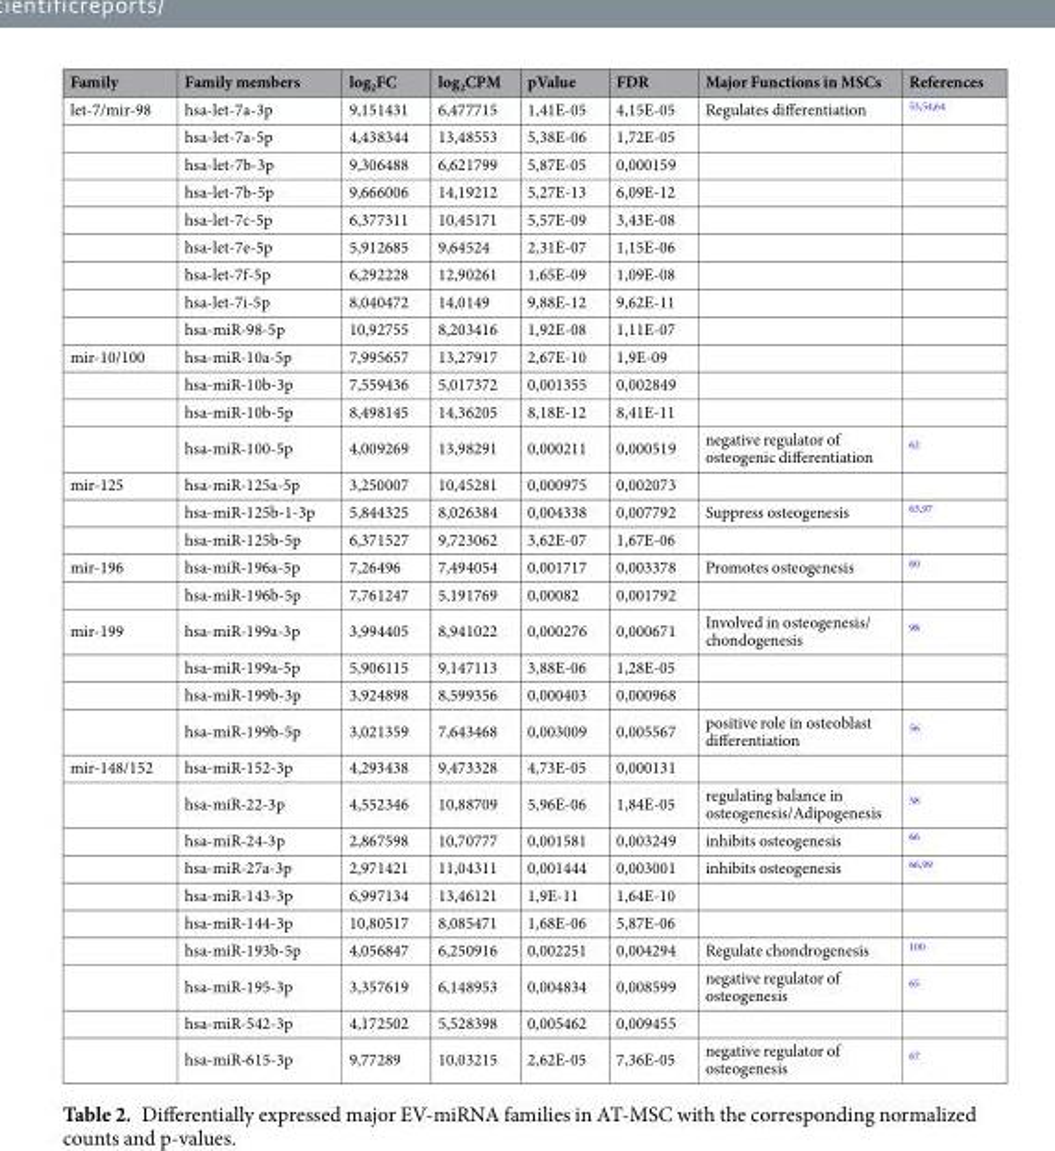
<table><thead><tr><td>Family</td><td>Family members</td><td>log<sub>2</sub>FC</td><td>log<sub>2</sub>CPM</td><td>pValue</td><td>FDR</td><td>Major Functions in MSCs</td><td>References</td></tr></thead><tbody><tr><td rowspan="9">let-7/mir-98</td><td>hsa-let-7a-3p</td><td>9,151431</td><td>6,477715</td><td>1,41E-05</td><td>4,15E-05</td><td>Regulates differentiation</td><td><sup>53,54,64</sup></td></tr><tr><td>hsa-let-7a-5p</td><td>4,438344</td><td>13,48553</td><td>5,38E-06</td><td>1,72E-05</td><td></td><td></td></tr><tr><td>hsa-let-7b-3p</td><td>9,306488</td><td>6,621799</td><td>5,87E-05</td><td>0,000159</td><td></td><td></td></tr><tr><td>hsa-let-7b-5p</td><td>9,666006</td><td>14,19212</td><td>5,27E-13</td><td>6,09E-12</td><td></td><td></td></tr><tr><td>hsa-let-7c-5p</td><td>6,377311</td><td>10,45171</td><td>5,57E-09</td><td>3,43E-08</td><td></td><td></td></tr><tr><td>hsa-let-7e-5p</td><td>5,912685</td><td>9,64524</td><td>2,31E-07</td><td>1,15E-06</td><td></td><td></td></tr><tr><td>hsa-let-7f-5p</td><td>6,292228</td><td>12,90261</td><td>1,65E-09</td><td>1,09E-08</td><td></td><td></td></tr><tr><td>hsa-let-7i-5p</td><td>8,040472</td><td>14,0149</td><td>9,88E-12</td><td>9,62E-11</td><td></td><td></td></tr><tr><td>hsa-miR-98-5p</td><td>10,92755</td><td>8,203416</td><td>1,92E-08</td><td>1,11E-07</td><td></td><td></td></tr><tr><td rowspan="4">mir-10/100</td><td>hsa-miR-10a-5p</td><td>7,995657</td><td>13,27917</td><td>2,67E-10</td><td>1,9E-09</td><td></td><td></td></tr><tr><td>hsa-miR-10b-3p</td><td>7,559436</td><td>5,017372</td><td>0,001355</td><td>0,002849</td><td></td><td></td></tr><tr><td>hsa-miR-10b-5p</td><td>8,498145</td><td>14,36205</td><td>8,18E-12</td><td>8,41E-11</td><td></td><td></td></tr><tr><td>hsa-miR-100-5p</td><td>4,009269</td><td>13,98291</td><td>0,000211</td><td>0,000519</td><td>negative regulator of osteogenic differentiation</td><td><sup>62</sup></td></tr><tr><td rowspan="3">mir-125</td><td>hsa-miR-125a-5p</td><td>3,250007</td><td>10,45281</td><td>0,000975</td><td>0,002073</td><td></td><td></td></tr><tr><td>hsa-miR-125b-1-3p</td><td>5,844325</td><td>8,026384</td><td>0,004338</td><td>0,007792</td><td>Suppress osteogenesis</td><td><sup>63,97</sup></td></tr><tr><td>hsa-miR-125b-5p</td><td>6,371527</td><td>9,723062</td><td>3,62E-07</td><td>1,67E-06</td><td></td><td></td></tr><tr><td rowspan="2">mir-196</td><td>hsa-miR-196a-5p</td><td>7,26496</td><td>7,494054</td><td>0,001717</td><td>0,003378</td><td>Promotes osteogenesis</td><td><sup>60</sup></td></tr><tr><td>hsa-miR-196b-5p</td><td>7,761247</td><td>5,191769</td><td>0,00082</td><td>0,001792</td><td></td><td></td></tr><tr><td rowspan="4">mir-199</td><td>hsa-miR-199a-3p</td><td>3,994405</td><td>8,941022</td><td>0,000276</td><td>0,000671</td><td>Involved in osteogenesis/ chondogenesis</td><td><sup>98</sup></td></tr><tr><td>hsa-miR-199a-5p</td><td>5,906115</td><td>9,147113</td><td>3,88E-06</td><td>1,28E-05</td><td></td><td></td></tr><tr><td>hsa-miR-199b-3p</td><td>3,924898</td><td>8,599356</td><td>0,000403</td><td>0,000968</td><td></td><td></td></tr><tr><td>hsa-miR-199b-5p</td><td>3,021359</td><td>7,643468</td><td>0,003009</td><td>0,005567</td><td>positive role in osteoblast differentiation</td><td><sup>56</sup></td></tr><tr><td rowspan="10">mir-148/152</td><td>hsa-miR-152-3p</td><td>4,293438</td><td>9,473328</td><td>4,73E-05</td><td>0,000131</td><td></td><td></td></tr><tr><td>hsa-miR-22-3p</td><td>4,552346</td><td>10,88709</td><td>5,96E-06</td><td>1,84E-05</td><td>regulating balance in osteogenesis/Adipogenesis</td><td><sup>58</sup></td></tr><tr><td>hsa-miR-24-3p</td><td>2,867598</td><td>10,70777</td><td>0,001581</td><td>0,003249</td><td>inhibits osteogenesis</td><td><sup>66</sup></td></tr><tr><td>hsa-miR-27a-3p</td><td>2,971421</td><td>11,04311</td><td>0,001444</td><td>0,003001</td><td>inhibits osteogenesis</td><td><sup>66,99</sup></td></tr><tr><td>hsa-miR-143-3p</td><td>6,997134</td><td>13,46121</td><td>1,9E-11</td><td>1,64E-10</td><td></td><td></td></tr><tr><td>hsa-miR-144-3p</td><td>10,80517</td><td>8,085471</td><td>1,68E-06</td><td>5,87E-06</td><td></td><td></td></tr><tr><td>hsa-miR-193b-5p</td><td>4,056847</td><td>6,250916</td><td>0,002251</td><td>0,004294</td><td>Regulate chondrogenesis</td><td><sup>100</sup></td></tr><tr><td>hsa-miR-195-3p</td><td>3,357619</td><td>6,148953</td><td>0,004834</td><td>0,008599</td><td>negative regulator of osteogenesis</td><td><sup>65</sup></td></tr><tr><td>hsa-miR-542-3p</td><td>4,172502</td><td>5,528398</td><td>0,005462</td><td>0,009455</td><td></td><td></td></tr><tr><td>hsa-miR-615-3p</td><td>9,77289</td><td>10,03215</td><td>2,62E-05</td><td>7,36E-05</td><td>negative regulator of osteogenesis</td><td><sup>67</sup></td></tr></tbody></table>